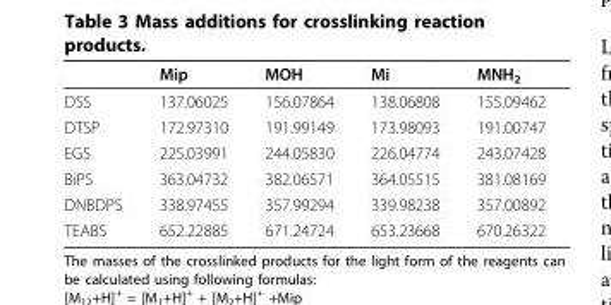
<table><thead><tr><td></td><td>Mip</td><td>MOH</td><td>Mi</td><td>MNH<sub>2</sub></td></tr></thead><tbody><tr><td>DSS</td><td>137.06025</td><td>156.07864</td><td>138.06808</td><td>155.09462</td></tr><tr><td>DTSP</td><td>172.97310</td><td>191.99149</td><td>173.98093</td><td>191.00747</td></tr><tr><td>EGS</td><td>225.03991</td><td>244.05830</td><td>226.04774</td><td>243.07428</td></tr><tr><td>BiPS</td><td>363.04732</td><td>382.06571</td><td>364.05515</td><td>381.08169</td></tr><tr><td>DNBDPS</td><td>338.97455</td><td>357.99294</td><td>339.98238</td><td>357.00892</td></tr><tr><td>TEABS</td><td>652.22885</td><td>671.24724</td><td>653.23668</td><td>670.26322</td></tr></tbody></table>